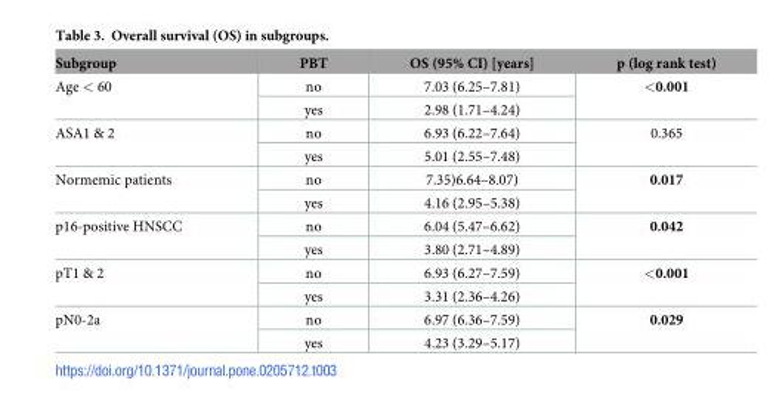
<table><thead><tr><td>Subgroup</td><td>PBT</td><td>OS (95% CI) [years]</td><td>p (log rank test)</td></tr></thead><tbody><tr><td rowspan="2">Age &lt; 60</td><td>no</td><td>7.03 (6.25–7.81)</td><td rowspan="2">&lt;0.001</td></tr><tr><td>yes</td><td>2.98 (1.71–4.24)</td></tr><tr><td rowspan="2">ASA1 &amp; 2</td><td>no</td><td>6.93 (6.22–7.64)</td><td rowspan="2">0.365</td></tr><tr><td>yes</td><td>5.01 (2.55–7.48)</td></tr><tr><td rowspan="2">Normemic patients</td><td>no</td><td>7.35)6.64–8.07)</td><td rowspan="2">0.017</td></tr><tr><td>yes</td><td>4.16 (2.95–5.38)</td></tr><tr><td rowspan="2">p16-positive HNSCC</td><td>no</td><td>6.04 (5.47–6.62)</td><td rowspan="2">0.042</td></tr><tr><td>yes</td><td>3.80 (2.71–4.89)</td></tr><tr><td rowspan="2">pT1 &amp; 2</td><td>no</td><td>6.93 (6.27–7.59)</td><td rowspan="2">&lt;0.001</td></tr><tr><td>yes</td><td>3.31 (2.36–4.26)</td></tr><tr><td rowspan="2">pN0-2a</td><td>no</td><td>6.97 (6.36–7.59)</td><td rowspan="2">0.029</td></tr><tr><td>yes</td><td>4.23 (3.29–5.17)</td></tr></tbody></table>